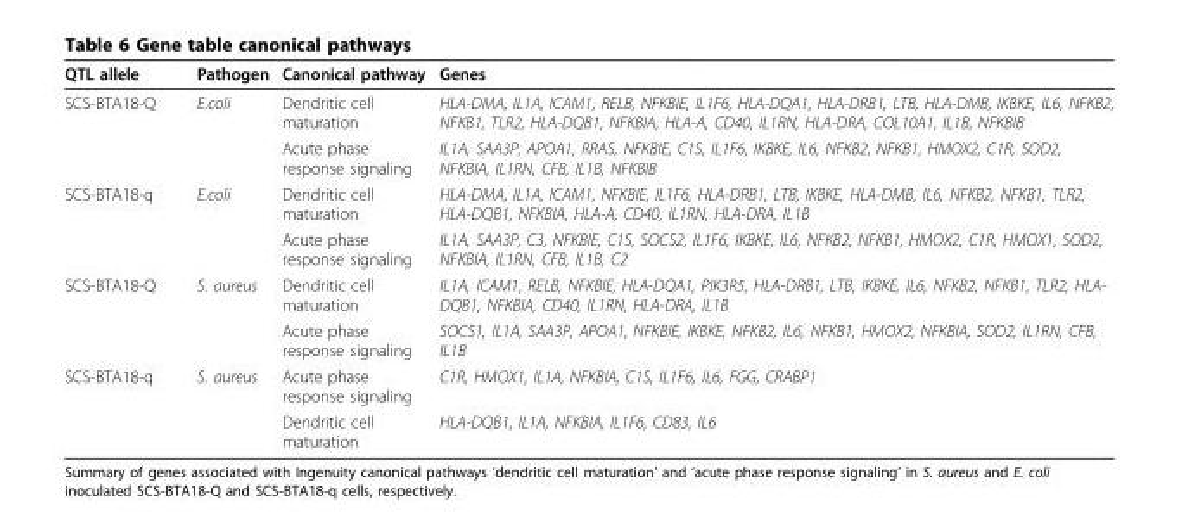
<table><thead><tr><td>QTL allele</td><td>Pathogen</td><td>Canonical pathway</td><td>Genes</td></tr></thead><tbody><tr><td rowspan="2">SCS-BTA18-Q</td><td>E.coli</td><td>Dendritic cell maturation</td><td>HLA-DMA, IL1A, ICAM1, RELB, NFKBIE, IL1F6, HLA-DQA1, HLA-DRB1, LTB, HLA-DMB, IKBKE, IL6, NFKB2, NFKB1, TLR2, HLA-DQB1, NFKBIA, HLA-A, CD40, IL1RN, HLA-DRA, COL10A1, IL1B, NFKBIB</td></tr><tr><td></td><td>Acute phase response signaling</td><td>IL1A, SAA3P, APOA1, RRAS, NFKBIE, C1S, IL1F6, IKBKE, IL6, NFKB2, NFKB1, HMOX2, C1R, SOD2, NFKBIA, IL1RN, CFB, IL1B, NFKBIB</td></tr><tr><td rowspan="2">SCS-BTA18-q</td><td>E.coli</td><td>Dendritic cell maturation</td><td>HLA-DMA, IL1A, ICAM1, NFKBIE, IL1F6, HLA-DRB1, LTB, IKBKE, HLA-DMB, IL6, NFKB2, NFKB1, TLR2, HLA-DQB1, NFKBIA, HLA-A, CD40, IL1RN, HLA-DRA, IL1B</td></tr><tr><td></td><td>Acute phase response signaling</td><td>IL1A, SAA3P, C3, NFKBIE, C1S, SOCS2, IL1F6, IKBKE, IL6, NFKB2, NFKB1, HMOX2, C1R, HMOX1, SOD2, NFKBIA, IL1RN, CFB, IL1B, C2</td></tr><tr><td rowspan="2">SCS-BTA18-Q</td><td>S. aureus</td><td>Dendritic cell maturation</td><td>IL1A, ICAM1, RELB, NFKBIE, HLA-DQA1, PIK3R5, HLA-DRB1, LTB, IKBKE, IL6, NFKB2, NFKB1, TLR2, HLA- DQB1, NFKBIA, CD40, IL1RN, HLA-DRA, IL1B</td></tr><tr><td></td><td>Acute phase response signaling</td><td>SOCS1, IL1A, SAA3P, APOA1, NFKBIE, IKBKE, NFKB2, IL6, NFKB1, HMOX2, NFKBIA, SOD2, IL1RN, CFB, IL1B</td></tr><tr><td rowspan="2">SCS-BTA18-q</td><td>S. aureus</td><td>Acute phase response signaling</td><td>C1R, HMOX1, IL1A, NFKBIA, C1S, IL1F6, IL6, FGG, CRABP1</td></tr><tr><td></td><td>Dendritic cell maturation</td><td>HLA-DQB1, IL1A, NFKBIA, IL1F6, CD83, IL6</td></tr></tbody></table>